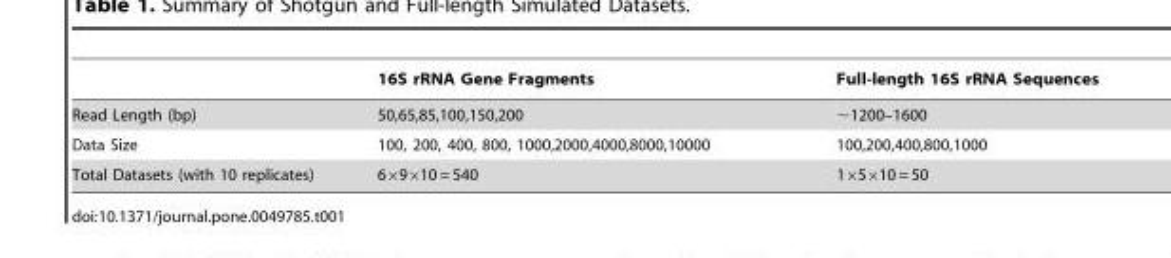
<table><thead><tr><td></td><td>16S rRNA Gene Fragments</td><td>Full-length 16S rRNA Sequences</td></tr></thead><tbody><tr><td>Read Length (bp)</td><td>50,65,85,100,150,200</td><td>∼1200–1600</td></tr><tr><td>Data Size</td><td>100, 200, 400, 800, 1000,2000,4000,8000,10000</td><td>100,200,400,800,1000</td></tr><tr><td>Total Datasets (with 10 replicates)</td><td>6×9×10 = 540</td><td>1×5×10 = 50</td></tr></tbody></table>